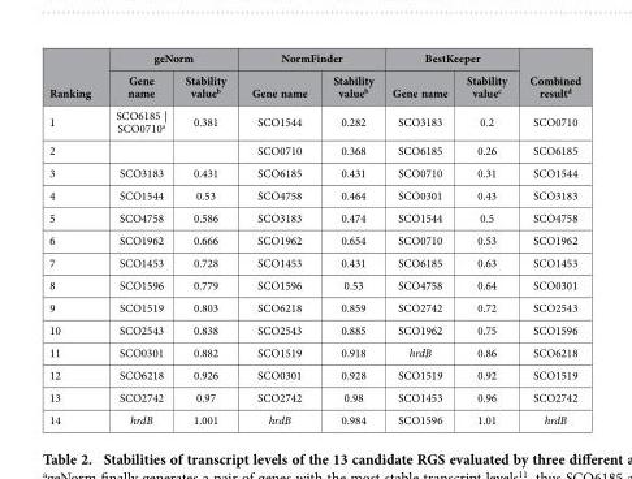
<table><thead><tr><td rowspan="2">Ranking</td><td colspan="2">geNorm</td><td colspan="2">NormFinder</td><td colspan="2">BestKeeper</td><td rowspan="2">Combined result<sup>d</sup></td></tr><tr><td>Gene name</td><td>Stability value<sup>b</sup></td><td>Gene name</td><td>Stability value<sup>b</sup></td><td>Gene name</td><td>Stability value<sup>c</sup></td></tr></thead><tbody><tr><td>1</td><td>SCO6185 | SCO0710<sup>a</sup></td><td>0.381</td><td>SCO1544</td><td>0.282</td><td>SCO3183</td><td>0.2</td><td>SCO0710</td></tr><tr><td>2</td><td></td><td></td><td>SCO0710</td><td>0.368</td><td>SCO6185</td><td>0.26</td><td>SCO6185</td></tr><tr><td>3</td><td>SCO3183</td><td>0.431</td><td>SCO6185</td><td>0.431</td><td>SCO0710</td><td>0.31</td><td>SCO1544</td></tr><tr><td>4</td><td>SCO1544</td><td>0.53</td><td>SCO4758</td><td>0.464</td><td>SCO0301</td><td>0.43</td><td>SCO3183</td></tr><tr><td>5</td><td>SCO4758</td><td>0.586</td><td>SCO3183</td><td>0.474</td><td>SCO1544</td><td>0.5</td><td>SCO4758</td></tr><tr><td>6</td><td>SCO1962</td><td>0.666</td><td>SCO1962</td><td>0.654</td><td>SCO0710</td><td>0.53</td><td>SCO1962</td></tr><tr><td>7</td><td>SCO1453</td><td>0.728</td><td>SCO1453</td><td>0.431</td><td>SCO6185</td><td>0.63</td><td>SCO1453</td></tr><tr><td>8</td><td>SCO1596</td><td>0.779</td><td>SCO1596</td><td>0.53</td><td>SCO4758</td><td>0.64</td><td>SCO0301</td></tr><tr><td>9</td><td>SCO1519</td><td>0.803</td><td>SCO6218</td><td>0.859</td><td>SCO2742</td><td>0.72</td><td>SCO2543</td></tr><tr><td>10</td><td>SCO2543</td><td>0.838</td><td>SCO2543</td><td>0.885</td><td>SCO1962</td><td>0.75</td><td>SCO1596</td></tr><tr><td>11</td><td>SCO0301</td><td>0.882</td><td>SCO1519</td><td>0.918</td><td>hrdB</td><td>0.86</td><td>SCO6218</td></tr><tr><td>12</td><td>SCO6218</td><td>0.926</td><td>SCO0301</td><td>0.928</td><td>SCO1519</td><td>0.92</td><td>SCO1519</td></tr><tr><td>13</td><td>SCO2742</td><td>0.97</td><td>SCO2742</td><td>0.98</td><td>SCO1453</td><td>0.96</td><td>SCO2742</td></tr><tr><td>14</td><td>hrdB</td><td>1.001</td><td>hrdB</td><td>0.984</td><td>SCO1596</td><td>1.01</td><td>hrdB</td></tr></tbody></table>